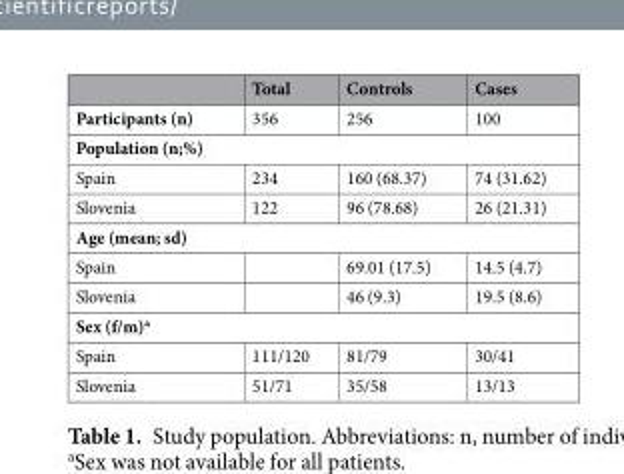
<table><thead><tr><td></td><td>Total</td><td>Controls</td><td>Cases</td></tr></thead><tbody><tr><td>Participants (n)</td><td>356</td><td>256</td><td>100</td></tr><tr><td colspan="4">Population (n;%)</td></tr><tr><td>Spain</td><td>234</td><td>160 (68.37)</td><td>74 (31.62)</td></tr><tr><td>Slovenia</td><td>122</td><td>96 (78.68)</td><td>26 (21.31)</td></tr><tr><td colspan="4">Age (mean; sd)</td></tr><tr><td>Spain</td><td></td><td>69.01 (17.5)</td><td>14.5 (4.7)</td></tr><tr><td>Slovenia</td><td></td><td>46 (9.3)</td><td>19.5 (8.6)</td></tr><tr><td colspan="4">Sex (f/m)<sup>a</sup></td></tr><tr><td>Spain</td><td>111/120</td><td>81/79</td><td>30/41</td></tr><tr><td>Slovenia</td><td>51/71</td><td>35/58</td><td>13/13</td></tr></tbody></table>